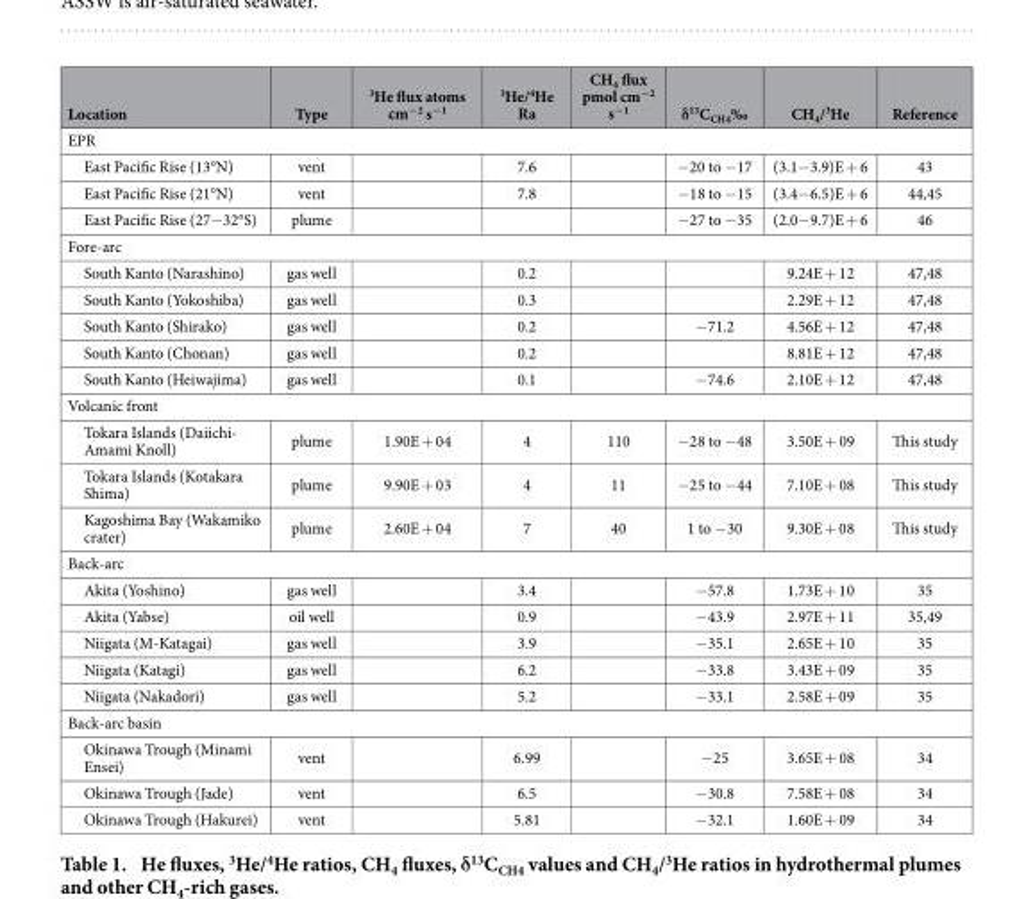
<table><thead><tr><td>Location</td><td>Type</td><td><sup>3</sup>He flux atoms cm<sup>−2</sup> s<sup>−1</sup></td><td><sup>3</sup>He/<sup>4</sup>He Ra</td><td>CH<sub>4</sub> flux pmol cm<sup>−2</sup> s<sup>−1</sup></td><td>δ<sup>13</sup>C<sub>CH4</sub>‰</td><td>CH<sub>4</sub>/<sup>3</sup>He</td><td>Reference</td></tr></thead><tbody><tr><td colspan="8">EPR</td></tr><tr><td>East Pacific Rise (13°N)</td><td>vent</td><td></td><td>7.6</td><td></td><td>− 20 to − 17</td><td>(3.1− 3.9)E + 6</td><td>43</td></tr><tr><td>East Pacific Rise (21°N)</td><td>vent</td><td></td><td>7.8</td><td></td><td>− 18 to − 15</td><td>(3.4− 6.5)E + 6</td><td>44,45</td></tr><tr><td>East Pacific Rise (27− 32°S)</td><td>plume</td><td></td><td></td><td></td><td>− 27 to − 35</td><td>(2.0− 9.7)E + 6</td><td>46</td></tr><tr><td colspan="8">Fore-arc</td></tr><tr><td>South Kanto (Narashino)</td><td>gas well</td><td></td><td>0.2</td><td></td><td></td><td>9.24E + 12</td><td>47,48</td></tr><tr><td>South Kanto (Yokoshiba)</td><td>gas well</td><td></td><td>0.3</td><td></td><td></td><td>2.29E + 12</td><td>47,48</td></tr><tr><td>South Kanto (Shirako)</td><td>gas well</td><td></td><td>0.2</td><td></td><td>− 71.2</td><td>4.56E + 12</td><td>47,48</td></tr><tr><td>South Kanto (Chonan)</td><td>gas well</td><td></td><td>0.2</td><td></td><td></td><td>8.81E + 12</td><td>47,48</td></tr><tr><td>South Kanto (Heiwajima)</td><td>gas well</td><td></td><td>0.1</td><td></td><td>− 74.6</td><td>2.10E + 12</td><td>47,48</td></tr><tr><td colspan="8">Volcanic front</td></tr><tr><td>Tokara Islands (Daiichi- Amami Knoll)</td><td>plume</td><td>1.90E + 04</td><td>4</td><td>110</td><td>− 28 to − 48</td><td>3.50E + 09</td><td>This study</td></tr><tr><td>Tokara Islands (Kotakara Shima)</td><td>plume</td><td>9.90E + 03</td><td>4</td><td>11</td><td>− 25 to − 44</td><td>7.10E + 08</td><td>This study</td></tr><tr><td>Kagoshima Bay (Wakamiko crater)</td><td>plume</td><td>2.60E + 04</td><td>7</td><td>40</td><td>1 to − 30</td><td>9.30E + 08</td><td>This study</td></tr><tr><td colspan="8">Back-arc</td></tr><tr><td>Akita (Yoshino)</td><td>gas well</td><td></td><td>3.4</td><td></td><td>− 57.8</td><td>1.73E + 10</td><td>35</td></tr><tr><td>Akita (Yabse)</td><td>oil well</td><td></td><td>0.9</td><td></td><td>− 43.9</td><td>2.97E + 11</td><td>35,49</td></tr><tr><td>Niigata (M-Katagai)</td><td>gas well</td><td></td><td>3.9</td><td></td><td>− 35.1</td><td>2.65E + 10</td><td>35</td></tr><tr><td>Niigata (Katagi)</td><td>gas well</td><td></td><td>6.2</td><td></td><td>− 33.8</td><td>3.43E + 09</td><td>35</td></tr><tr><td>Niigata (Nakadori)</td><td>gas well</td><td></td><td>5.2</td><td></td><td>− 33.1</td><td>2.58E + 09</td><td>35</td></tr><tr><td colspan="8">Back-arc basin</td></tr><tr><td>Okinawa Trough (Minami Ensei)</td><td>vent</td><td></td><td>6.99</td><td></td><td>− 25</td><td>3.65E + 08</td><td>34</td></tr><tr><td>Okinawa Trough (Jade)</td><td>vent</td><td></td><td>6.5</td><td></td><td>− 30.8</td><td>7.58E + 08</td><td>34</td></tr><tr><td>Okinawa Trough (Hakurei)</td><td>vent</td><td></td><td>5.81</td><td></td><td>− 32.1</td><td>1.60E + 09</td><td>34</td></tr></tbody></table>